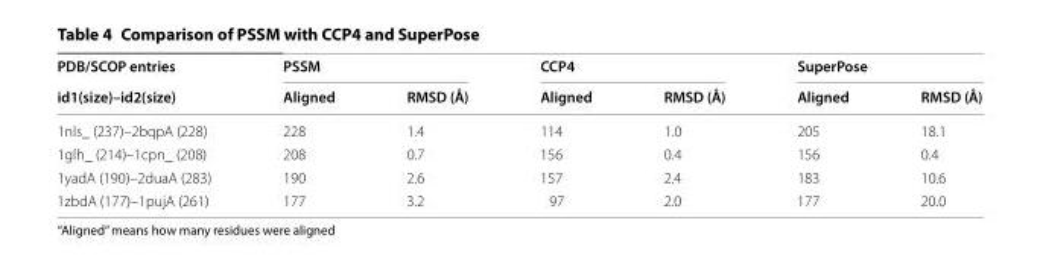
<table><thead><tr><td rowspan="2">PDB/SCOP entries id1(size)–id2(size)</td><td colspan="2">PSSM</td><td colspan="2">CCP4</td><td colspan="2">SuperPose</td></tr><tr><td>Aligned</td><td>RMSD (Å)</td><td>Aligned</td><td>RMSD (Å)</td><td>Aligned</td><td>RMSD (Å)</td></tr></thead><tbody><tr><td>1nls_ (237)–2bqpA (228)</td><td>228</td><td>1.4</td><td>114</td><td>1.0</td><td>205</td><td>18.1</td></tr><tr><td>1glh_ (214)–1cpn_ (208)</td><td>208</td><td>0.7</td><td>156</td><td>0.4</td><td>156</td><td>0.4</td></tr><tr><td>1yadA (190)–2duaA (283)</td><td>190</td><td>2.6</td><td>157</td><td>2.4</td><td>183</td><td>10.6</td></tr><tr><td>1zbdA (177)–1pujA (261)</td><td>177</td><td>3.2</td><td>97</td><td>2.0</td><td>177</td><td>20.0</td></tr></tbody></table>